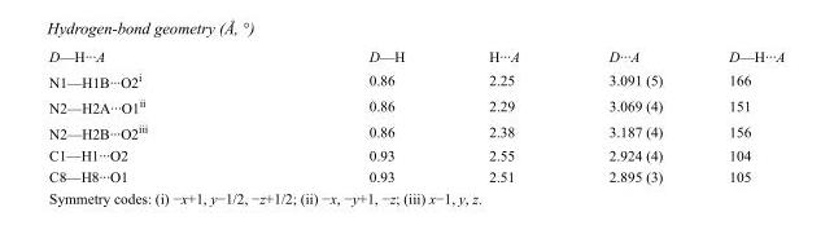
<table><tbody><tr><td>D—H···A</td><td>D—H</td><td>H···A</td><td>D···A</td><td>D—H···A</td></tr><tr><td>N1—H1B···O2<sup>i</sup></td><td>0.86</td><td>2.25</td><td>3.091 (5)</td><td>166</td></tr><tr><td>N2—H2A···O1<sup>ii</sup></td><td>0.86</td><td>2.29</td><td>3.069 (4)</td><td>151</td></tr><tr><td>N2—H2B···O2<sup>iii</sup></td><td>0.86</td><td>2.38</td><td>3.187 (4)</td><td>156</td></tr><tr><td>C1—H1···O2</td><td>0.93</td><td>2.55</td><td>2.924 (4)</td><td>104</td></tr><tr><td>C8—H8···O1</td><td>0.93</td><td>2.51</td><td>2.895 (3)</td><td>105</td></tr></tbody></table>